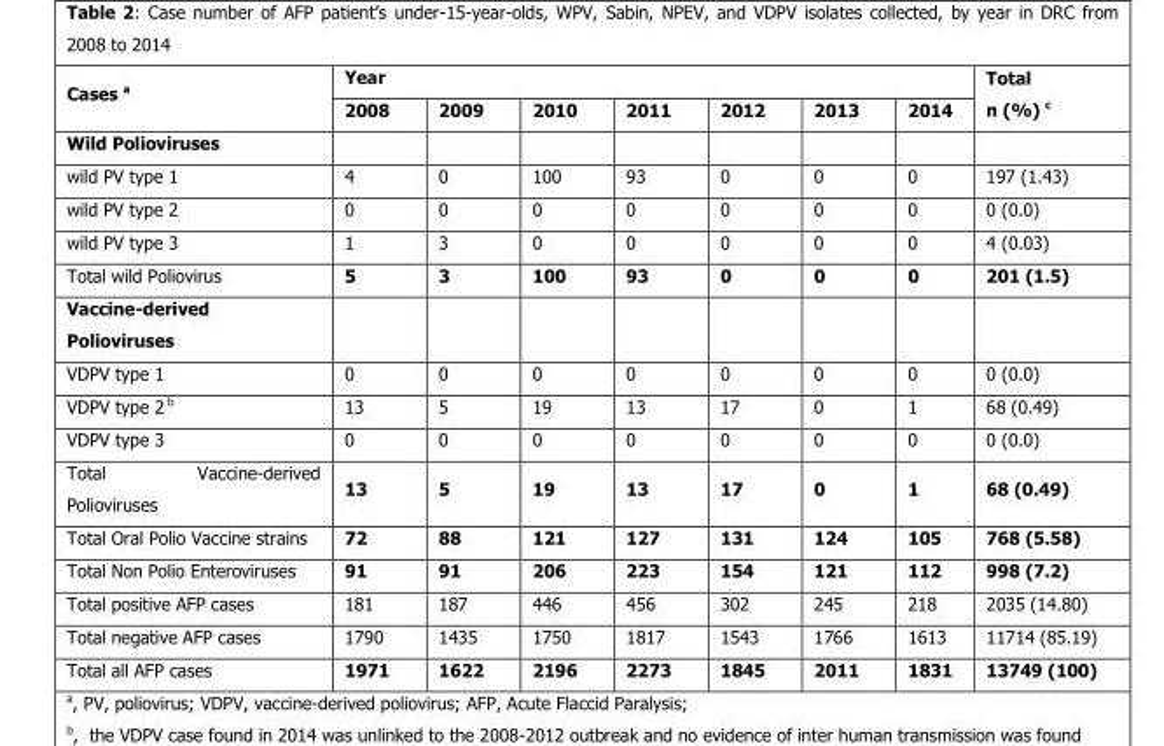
<table><thead><tr><td rowspan="2">Cases a</td><td colspan="7">Year</td><td rowspan="2">Total n (%) c</td></tr><tr><td>2008</td><td>2009</td><td>2010</td><td>2011</td><td>2012</td><td>2013</td><td>2014</td></tr></thead><tbody><tr><td colspan="9">Wild Polioviruses</td></tr><tr><td>wild PV type 1</td><td>4</td><td>0</td><td>100</td><td>93</td><td>0</td><td>0</td><td>0</td><td>197 (1.43)</td></tr><tr><td>wild PV type 2</td><td>0</td><td>0</td><td>0</td><td>0</td><td>0</td><td>0</td><td>0</td><td>0 (0.0)</td></tr><tr><td>wild PV type 3</td><td>1</td><td>3</td><td>0</td><td>0</td><td>0</td><td>0</td><td>0</td><td>4 (0.03)</td></tr><tr><td>Total wild Poliovirus</td><td>5</td><td>3</td><td>100</td><td>93</td><td>0</td><td>0</td><td>0</td><td>201 (1.5)</td></tr><tr><td colspan="9">Vaccine-derived Polioviruses</td></tr><tr><td>VDPV type 1</td><td>0</td><td>0</td><td>0</td><td>0</td><td>0</td><td>0</td><td>0</td><td>0 (0.0)</td></tr><tr><td>VDPV type 2 b</td><td>13</td><td>5</td><td>19</td><td>13</td><td>17</td><td>0</td><td>1</td><td>68 (0.49)</td></tr><tr><td>VDPV type 3</td><td>0</td><td>0</td><td>0</td><td>0</td><td>0</td><td>0</td><td>0</td><td>0 (0.0)</td></tr><tr><td>Total Vaccine-derived Polioviruses</td><td>13</td><td>5</td><td>19</td><td>13</td><td>17</td><td>0</td><td>1</td><td>68 (0.49)</td></tr><tr><td>Total Oral Polio Vaccine strains</td><td>72</td><td>88</td><td>121</td><td>127</td><td>131</td><td>124</td><td>105</td><td>768 (5.58)</td></tr><tr><td>Total Non Polio Enteroviruses</td><td>91</td><td>91</td><td>206</td><td>223</td><td>154</td><td>121</td><td>112</td><td>998 (7.2)</td></tr><tr><td>Total positive AFP cases</td><td>181</td><td>187</td><td>446</td><td>456</td><td>302</td><td>245</td><td>218</td><td>2035 (14.80)</td></tr><tr><td>Total negative AFP cases</td><td>1790</td><td>1435</td><td>1750</td><td>1817</td><td>1543</td><td>1766</td><td>1613</td><td>11714 (85.19)</td></tr><tr><td>Total all AFP cases</td><td>1971</td><td>1622</td><td>2196</td><td>2273</td><td>1845</td><td>2011</td><td>1831</td><td>13749 (100)</td></tr></tbody></table>